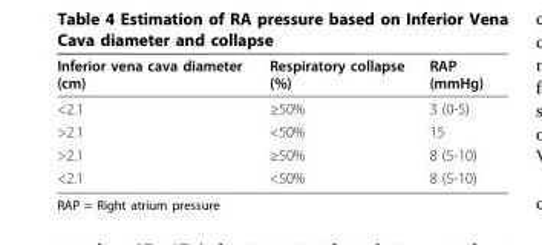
<table><thead><tr><td>Inferior vena cava diameter (cm)</td><td>Respiratory collapse (%)</td><td>RAP (mmHg)</td></tr></thead><tbody><tr><td>&lt;2.1</td><td>≥50%</td><td>3 (0-5)</td></tr><tr><td>&gt;2.1</td><td>&lt;50%</td><td>15</td></tr><tr><td>&gt;2.1</td><td>≥50%</td><td>8 (5-10)</td></tr><tr><td>&lt;2.1</td><td>&lt;50%</td><td>8 (5-10)</td></tr></tbody></table>